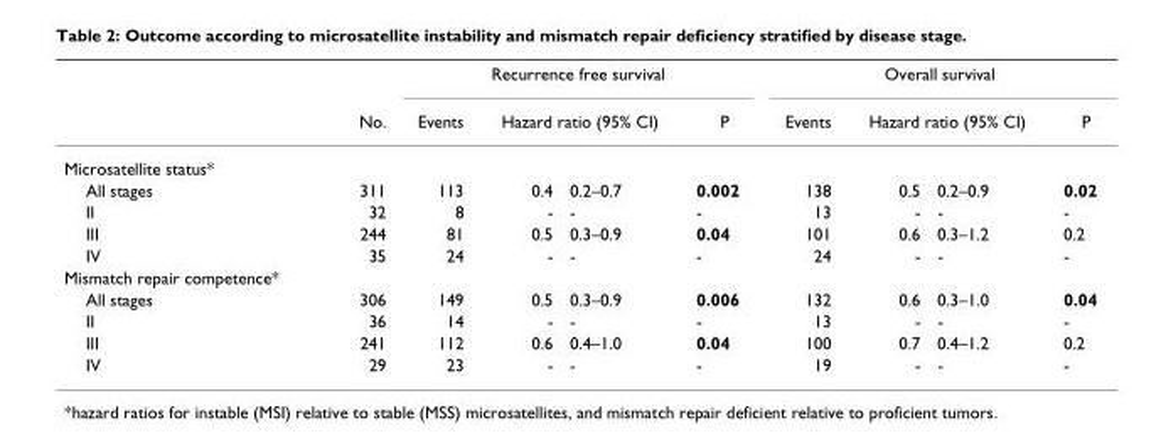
<table><thead><tr><td rowspan="3">Microsatellite status*</td><td rowspan="3">No.</td><td colspan="4">Recurrence free survival</td><td colspan="4">Overall survival</td></tr><tr><td rowspan="2">Events</td><td colspan="2">Hazard ratio (95% CI)</td><td rowspan="2">P</td><td rowspan="2">Events</td><td colspan="2">Hazard ratio (95% CI)</td><td rowspan="2">P</td></tr><tr><td></td><td></td><td></td><td></td></tr></thead><tbody><tr><td>All stages</td><td>311</td><td>113</td><td>0.4</td><td>0.2–0.7</td><td>0.002</td><td>138</td><td>0.5</td><td>0.2–0.9</td><td>0.02</td></tr><tr><td>II</td><td>32</td><td>8</td><td>-</td><td>-</td><td>-</td><td>13</td><td>-</td><td>-</td><td>-</td></tr><tr><td>III</td><td>244</td><td>81</td><td>0.5</td><td>0.3–0.9</td><td>0.04</td><td>101</td><td>0.6</td><td>0.3–1.2</td><td>0.2</td></tr><tr><td>IV</td><td>35</td><td>24</td><td>-</td><td>-</td><td>-</td><td>24</td><td>-</td><td>-</td><td>-</td></tr><tr><td colspan="10">Mismatch repair competence*</td></tr><tr><td>All stages</td><td>306</td><td>149</td><td>0.5</td><td>0.3–0.9</td><td>0.006</td><td>132</td><td>0.6</td><td>0.3–1.0</td><td>0.04</td></tr><tr><td>II</td><td>36</td><td>14</td><td>-</td><td>-</td><td>-</td><td>13</td><td>-</td><td>-</td><td>-</td></tr><tr><td>III</td><td>241</td><td>112</td><td>0.6</td><td>0.4–1.0</td><td>0.04</td><td>100</td><td>0.7</td><td>0.4–1.2</td><td>0.2</td></tr><tr><td>IV</td><td>29</td><td>23</td><td>-</td><td>-</td><td>-</td><td>19</td><td>-</td><td>-</td><td>-</td></tr></tbody></table>